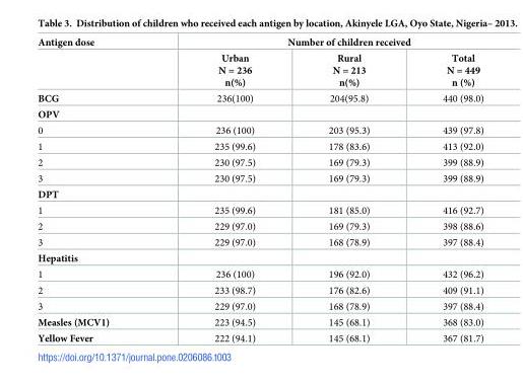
<table><thead><tr><td rowspan="2">Antigen dose</td><td colspan="3">Number of children received</td></tr><tr><td>Urban N = 236 n(%)</td><td>Rural N = 213 n(%)</td><td>Total N = 449 n (%)</td></tr></thead><tbody><tr><td>BCG</td><td>236(100)</td><td>204(95.8)</td><td>440 (98.0)</td></tr><tr><td colspan="4">OPV</td></tr><tr><td>0</td><td>236 (100)</td><td>203 (95.3)</td><td>439 (97.8)</td></tr><tr><td>1</td><td>235 (99.6)</td><td>178 (83.6)</td><td>413 (92.0)</td></tr><tr><td>2</td><td>230 (97.5)</td><td>169 (79.3)</td><td>399 (88.9)</td></tr><tr><td>3</td><td>230 (97.5)</td><td>169 (79.3)</td><td>399 (88.9)</td></tr><tr><td colspan="4">DPT</td></tr><tr><td>1</td><td>235 (99.6)</td><td>181 (85.0)</td><td>416 (92.7)</td></tr><tr><td>2</td><td>229 (97.0)</td><td>169 (79.3)</td><td>398 (88.6)</td></tr><tr><td>3</td><td>229 (97.0)</td><td>168 (78.9)</td><td>397 (88.4)</td></tr><tr><td colspan="4">Hepatitis</td></tr><tr><td>1</td><td>236 (100)</td><td>196 (92.0)</td><td>432 (96.2)</td></tr><tr><td>2</td><td>233 (98.7)</td><td>176 (82.6)</td><td>409 (91.1)</td></tr><tr><td>3</td><td>229 (97.0)</td><td>168 (78.9)</td><td>397 (88.4)</td></tr><tr><td>Measles (MCV1)</td><td>223 (94.5)</td><td>145 (68.1)</td><td>368 (83.0)</td></tr><tr><td>Yellow Fever</td><td>222 (94.1)</td><td>145 (68.1)</td><td>367 (81.7)</td></tr></tbody></table>